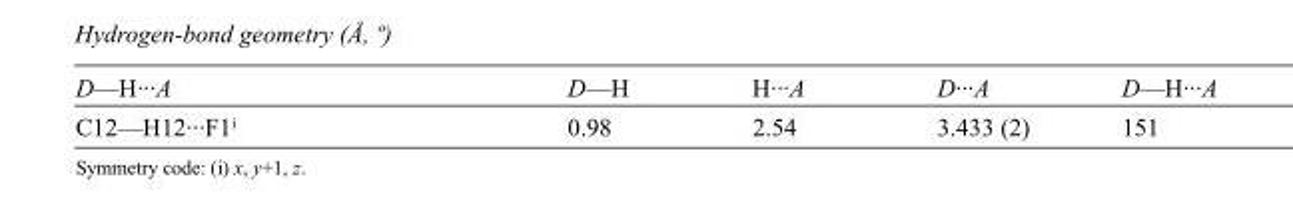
<table><tbody><tr><td>D—H···A</td><td>D—H</td><td>H···A</td><td>D···A</td><td>D—H···A</td></tr><tr><td>C12—H12···F1<sup>i</sup></td><td>0.98</td><td>2.54</td><td>3.433 (2)</td><td>151</td></tr></tbody></table>